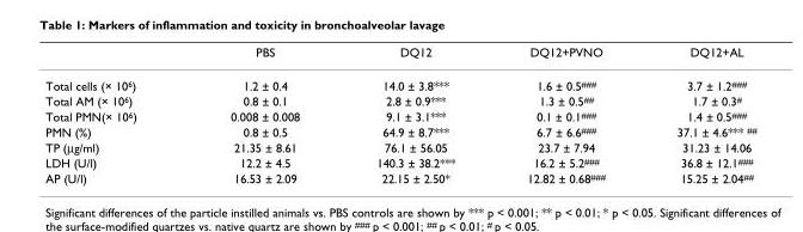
<table><thead><tr><td></td><td>PBS</td><td>DQ12</td><td>DQ12+PVNO</td><td>DQ12+AL</td></tr></thead><tbody><tr><td>Total cells (× 10<sup>6</sup>)</td><td>1.2 ± 0.4</td><td>14.0 ± 3.8***</td><td>1.6 ± 0.5<sup>###</sup></td><td>3.7 ± 1.2<sup>###</sup></td></tr><tr><td>Total AM (× 10<sup>6</sup>)</td><td>0.8 ± 0.1</td><td>2.8 ± 0.9***</td><td>1.3 ± 0.5<sup>##</sup></td><td>1.7 ± 0.3<sup>#</sup></td></tr><tr><td>Total PMN(× 10<sup>6</sup>)</td><td>0.008 ± 0.008</td><td>9.1 ± 3.1***</td><td>0.1 ± 0.1<sup>###</sup></td><td>1.4 ± 0.5<sup>###</sup></td></tr><tr><td>PMN (%)</td><td>0.8 ± 0.5</td><td>64.9 ± 8.7***</td><td>6.7 ± 6.6<sup>###</sup></td><td>37.1 ± 4.6*** <sup>##</sup></td></tr><tr><td>TP (µg/ml)</td><td>21.35 ± 8.61</td><td>76.1 ± 56.05</td><td>23.7 ± 7.94</td><td>31.23 ± 14.06</td></tr><tr><td>LDH (U/l)</td><td>12.2 ± 4.5</td><td>140.3 ± 38.2***</td><td>16.2 ± 5.2<sup>###</sup></td><td>36.8 ± 12.1<sup>###</sup></td></tr><tr><td>AP (U/l)</td><td>16.53 ± 2.09</td><td>22.15 ± 2.50*</td><td>12.82 ± 0.68<sup>###</sup></td><td>15.25 ± 2.04<sup>##</sup></td></tr></tbody></table>